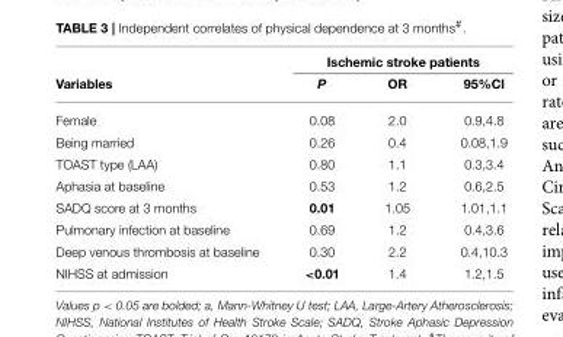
<table><thead><tr><td rowspan="2">Variables</td><td colspan="3">Ischemic stroke patients</td></tr><tr><td>P</td><td>OR</td><td>95%CI</td></tr></thead><tbody><tr><td>Female</td><td>0.08</td><td>2.0</td><td>0.9,4.8</td></tr><tr><td>Being married</td><td>0.26</td><td>0.4</td><td>0.08,1.9</td></tr><tr><td>TOAST type (LAA)</td><td>0.80</td><td>1.1</td><td>0.3,3.4</td></tr><tr><td>Aphasia at baseline</td><td>0.53</td><td>1.2</td><td>0.6,2.5</td></tr><tr><td>SADQ score at 3 months</td><td>0.01</td><td>1.05</td><td>1.01,1.1</td></tr><tr><td>Pulmonary infection at baseline</td><td>0.69</td><td>1.2</td><td>0.4,3.6</td></tr><tr><td>Deep venous thrombosis at baseline</td><td>0.30</td><td>2.2</td><td>0.4,10.3</td></tr><tr><td>NIHSS at admission</td><td>&lt;0.01</td><td>1.4</td><td>1.2,1.5</td></tr></tbody></table>